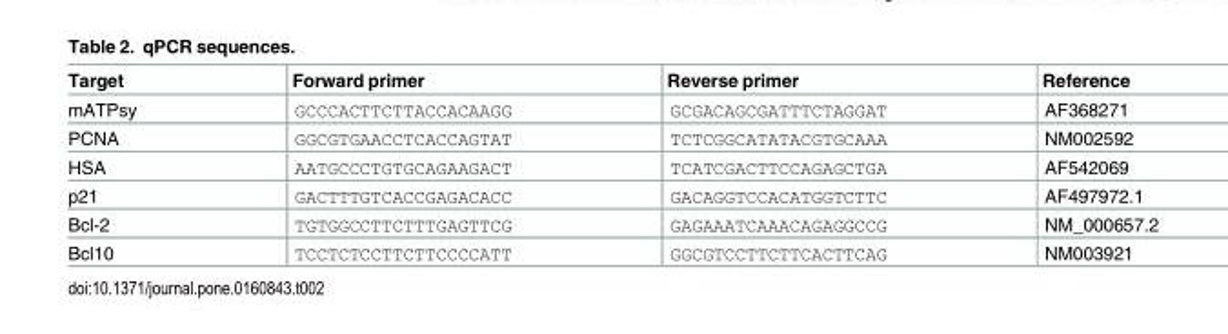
<table><thead><tr><td>Target</td><td>Forward primer</td><td>Reverse primer</td><td>Reference</td></tr></thead><tbody><tr><td>mATPsy</td><td>GCCCACTTCTTACCACAAGG</td><td>GCGACAGCGATTTCTAGGAT</td><td>AF368271</td></tr><tr><td>PCNA</td><td>GGCGTGAACCTCACCAGTAT</td><td>TCTCGGCATATACGTGCAAA</td><td>NM002592</td></tr><tr><td>HSA</td><td>AATGCCCTGTGCAGAAGACT</td><td>TCATCGACTTCCAGAGCTGA</td><td>AF542069</td></tr><tr><td>p21</td><td>GACTTTGTCACCGAGACACC</td><td>GACAGGTCCACATGGTCTTC</td><td>AF497972.1</td></tr><tr><td>Bcl-2</td><td>TGTGGCCTTCTTTGAGTTCG</td><td>GAGAAATCAAACAGAGGCCG</td><td>NM_000657.2</td></tr><tr><td>Bcl10</td><td>TCCTCTCCTTCTTCCCCATT</td><td>GGCGTCCTTCTTCACTTCAG</td><td>NM003921</td></tr></tbody></table>